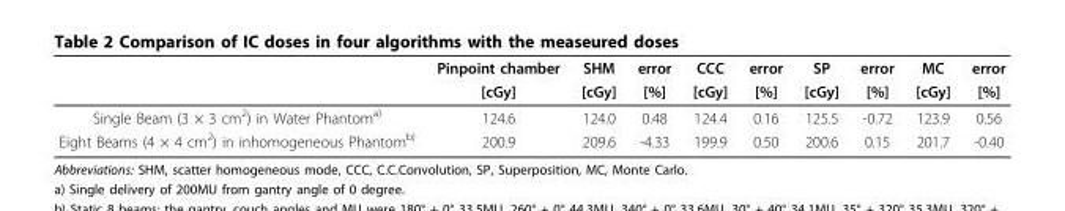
<table><thead><tr><td rowspan="2"></td><td rowspan="2">Pinpoint chamber [cGy]</td><td rowspan="2">SHM [cGy]</td><td rowspan="2">error [%]</td><td rowspan="2">CCC [cGy]</td><td rowspan="2">error [%]</td><td rowspan="2">SP [cGy]</td><td rowspan="2">error [%]</td><td rowspan="2">MC [cGy]</td><td rowspan="2">error [%]</td></tr><tr></tr></thead><tbody><tr><td>Single Beam (3 × 3 cm<sup>2</sup>) in Water Phantom<sup>a)</sup></td><td>124.6</td><td>124.0</td><td>0.48</td><td>124.4</td><td>0.16</td><td>125.5</td><td>-0.72</td><td>123.9</td><td>0.56</td></tr><tr><td>Eight Beams (4 × 4 cm<sup>2</sup>) in inhomogeneous Phantom<sup>b)</sup></td><td>200.9</td><td>209.6</td><td>-4.33</td><td>199.9</td><td>0.50</td><td>200.6</td><td>0.15</td><td>201.7</td><td>-0.40</td></tr></tbody></table>